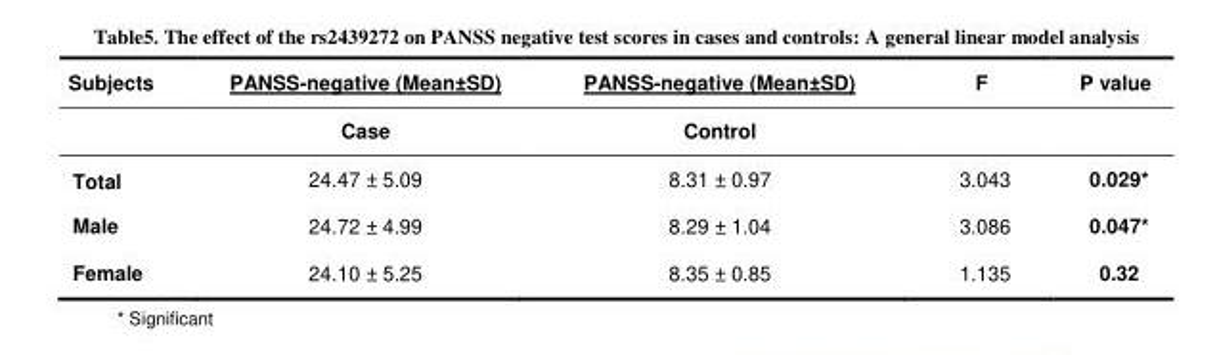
<table><thead><tr><td rowspan="2">Subjects</td><td rowspan="2">PANSS-negative (Mean±SD) Case</td><td rowspan="2">PANSS-negative (Mean±SD) Control</td><td rowspan="2">F</td><td rowspan="2">P value</td></tr><tr></tr></thead><tbody><tr><td>Total</td><td>24.47 ± 5.09</td><td>8.31 ± 0.97</td><td>3.043</td><td>0.029*</td></tr><tr><td>Male</td><td>24.72 ± 4.99</td><td>8.29 ± 1.04</td><td>3.086</td><td>0.047*</td></tr><tr><td>Female</td><td>24.10 ± 5.25</td><td>8.35 ± 0.85</td><td>1.135</td><td>0.32</td></tr></tbody></table>